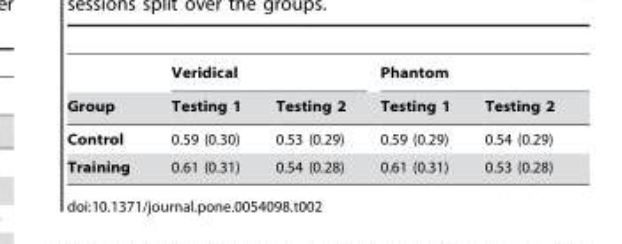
<table><thead><tr><td rowspan="2">Group</td><td colspan="2">Veridical</td><td colspan="2">Phantom</td></tr><tr><td>Testing 1</td><td>Testing 2</td><td>Testing 1</td><td>Testing 2</td></tr></thead><tbody><tr><td>Control</td><td>0.59 (0.30)</td><td>0.53 (0.29)</td><td>0.59 (0.29)</td><td>0.54 (0.29)</td></tr><tr><td>Training</td><td>0.61 (0.31)</td><td>0.54 (0.28)</td><td>0.61 (0.31)</td><td>0.53 (0.28)</td></tr></tbody></table>